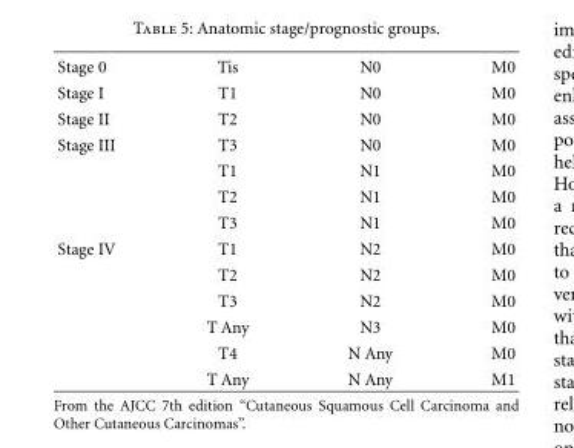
<table><tbody><tr><td>Stage 0</td><td>Tis</td><td>N0</td><td>M0</td></tr><tr><td>Stage I</td><td>T1</td><td>N0</td><td>M0</td></tr><tr><td>Stage II</td><td>T2</td><td>N0</td><td>M0</td></tr><tr><td rowspan="4">Stage III</td><td>T3</td><td>N0</td><td>M0</td></tr><tr><td>T1</td><td>N1</td><td>M0</td></tr><tr><td>T2</td><td>N1</td><td>M0</td></tr><tr><td>T3</td><td>N1</td><td>M0</td></tr><tr><td rowspan="6">Stage IV</td><td>T1</td><td>N2</td><td>M0</td></tr><tr><td>T2</td><td>N2</td><td>M0</td></tr><tr><td>T3</td><td>N2</td><td>M0</td></tr><tr><td>T Any</td><td>N3</td><td>M0</td></tr><tr><td>T4</td><td>N Any</td><td>M0</td></tr><tr><td>T Any</td><td>N Any</td><td>M1</td></tr></tbody></table>